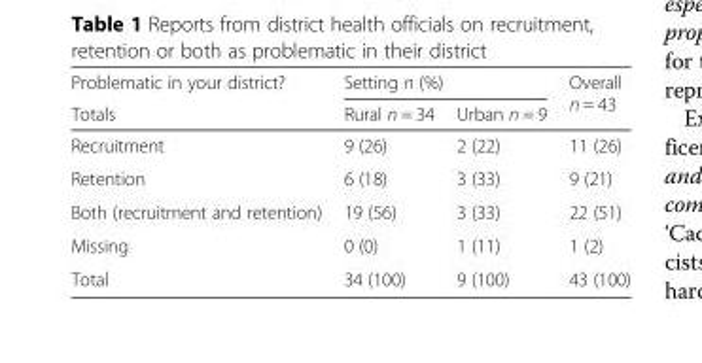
<table><thead><tr><td rowspan="2">Problematic in your district? Totals</td><td colspan="2">Setting n (%)</td><td rowspan="2">Overall n = 43</td></tr><tr><td>Rural n = 34</td><td>Urban n = 9</td></tr></thead><tbody><tr><td>Recruitment</td><td>9 (26)</td><td>2 (22)</td><td>11 (26)</td></tr><tr><td>Retention</td><td>6 (18)</td><td>3 (33)</td><td>9 (21)</td></tr><tr><td>Both (recruitment and retention)</td><td>19 (56)</td><td>3 (33)</td><td>22 (51)</td></tr><tr><td>Missing</td><td>0 (0)</td><td>1 (11)</td><td>1 (2)</td></tr><tr><td>Total</td><td>34 (100)</td><td>9 (100)</td><td>43 (100)</td></tr></tbody></table>